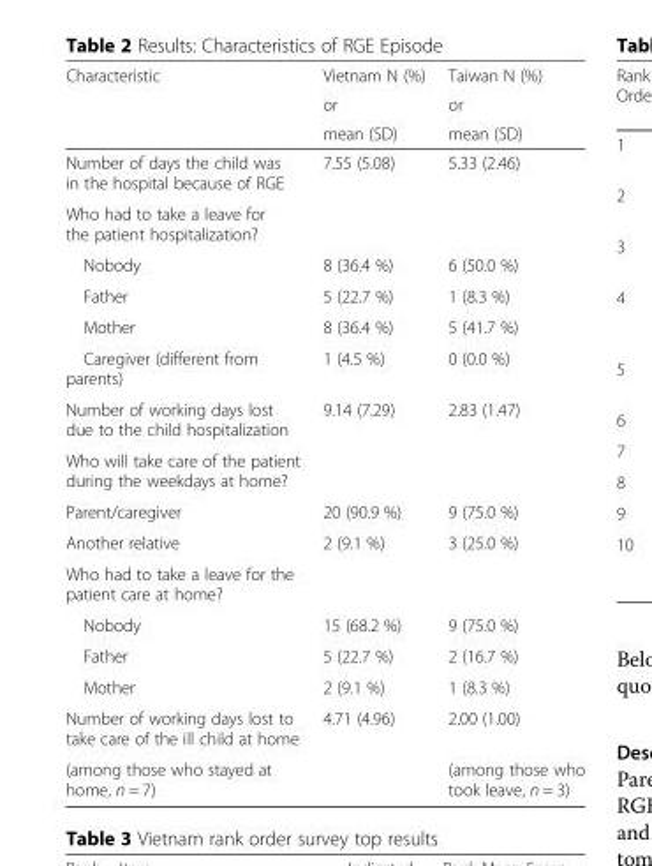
<table><thead><tr><td rowspan="3">Characteristic</td><td rowspan="3">Vietnam N (%) or mean (SD)</td><td rowspan="3">Taiwan N (%) or mean (SD)</td></tr><tr></tr><tr></tr></thead><tbody><tr><td>Number of days the child was in the hospital because of RGE</td><td>7.55 (5.08)</td><td>5.33 (2.46)</td></tr><tr><td colspan="3">Who had to take a leave for the patient hospitalization?</td></tr><tr><td>Nobody</td><td>8 (36.4 %)</td><td>6 (50.0 %)</td></tr><tr><td>Father</td><td>5 (22.7 %)</td><td>1 (8.3 %)</td></tr><tr><td>Mother</td><td>8 (36.4 %)</td><td>5 (41.7 %)</td></tr><tr><td>Caregiver (different from parents)</td><td>1 (4.5 %)</td><td>0 (0.0 %)</td></tr><tr><td>Number of working days lost due to the child hospitalization</td><td>9.14 (7.29)</td><td>2.83 (1.47)</td></tr><tr><td colspan="3">Who will take care of the patient during the weekdays at home?</td></tr><tr><td>Parent/caregiver</td><td>20 (90.9 %)</td><td>9 (75.0 %)</td></tr><tr><td>Another relative</td><td>2 (9.1 %)</td><td>3 (25.0 %)</td></tr><tr><td colspan="3">Who had to take a leave for the patient care at home?</td></tr><tr><td>Nobody</td><td>15 (68.2 %)</td><td>9 (75.0 %)</td></tr><tr><td>Father</td><td>5 (22.7 %)</td><td>2 (16.7 %)</td></tr><tr><td>Mother</td><td>2 (9.1 %)</td><td>1 (8.3 %)</td></tr><tr><td>Number of working days lost to take care of the ill child at home</td><td>4.71 (4.96)</td><td>2.00 (1.00)</td></tr><tr><td>(among those who stayed at home, n = 7)</td><td></td><td>(among those who took leave, n = 3)</td></tr></tbody></table>